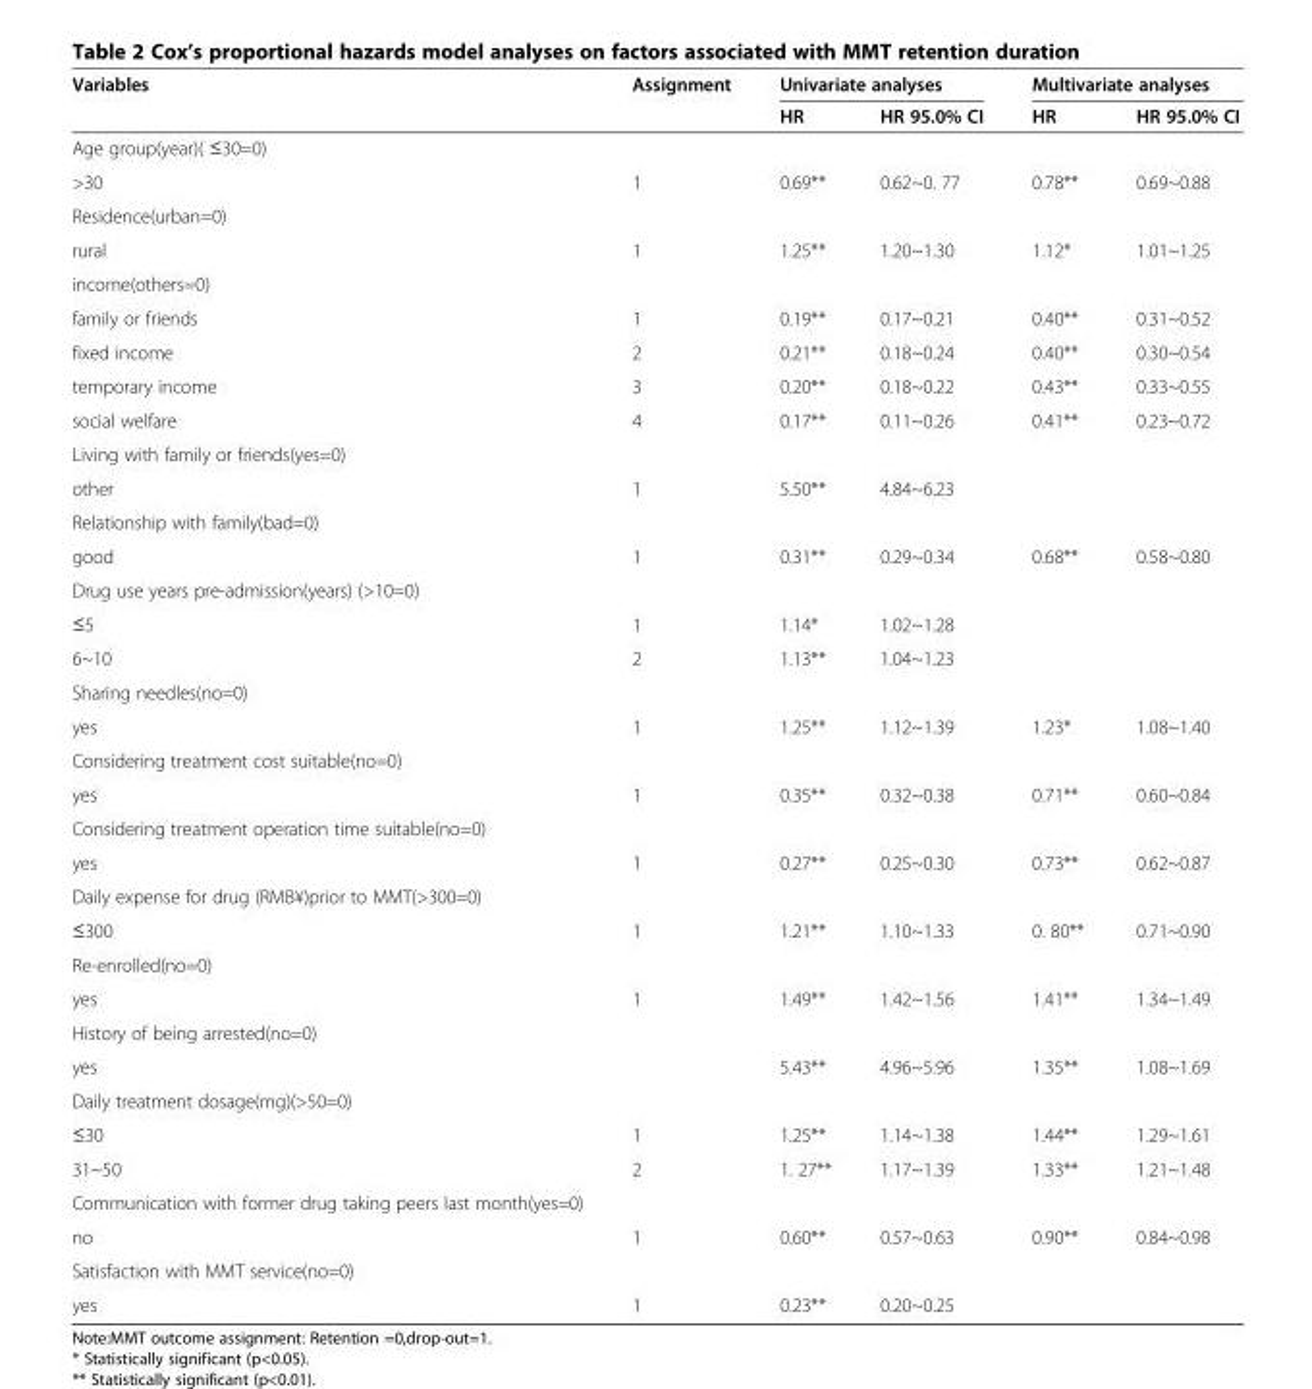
<table><thead><tr><td rowspan="2">Variables</td><td rowspan="2">Assignment</td><td colspan="2">Univariate analyses</td><td colspan="2">Multivariate analyses</td></tr><tr><td>HR</td><td>HR 95.0% CI</td><td>HR</td><td>HR 95.0% CI</td></tr></thead><tbody><tr><td colspan="6">Age group(year)( ≤30=0)</td></tr><tr><td>&gt;30</td><td>1</td><td>0.69**</td><td>0.62~0. 77</td><td>0.78**</td><td>0.69~0.88</td></tr><tr><td colspan="6">Residence(urban=0)</td></tr><tr><td>rural</td><td>1</td><td>1.25**</td><td>1.20~1.30</td><td>1.12*</td><td>1.01~1.25</td></tr><tr><td colspan="6">income(others=0)</td></tr><tr><td>family or friends</td><td>1</td><td>0.19**</td><td>0.17~0.21</td><td>0.40**</td><td>0.31~0.52</td></tr><tr><td>fixed income</td><td>2</td><td>0.21**</td><td>0.18~0.24</td><td>0.40**</td><td>0.30~0.54</td></tr><tr><td>temporary income</td><td>3</td><td>0.20**</td><td>0.18~0.22</td><td>0.43**</td><td>0.33~0.55</td></tr><tr><td>social welfare</td><td>4</td><td>0.17**</td><td>0.11~0.26</td><td>0.41**</td><td>0.23~0.72</td></tr><tr><td colspan="6">Living with family or friends(yes=0)</td></tr><tr><td>other</td><td>1</td><td>5.50**</td><td>4.84~6.23</td><td></td><td></td></tr><tr><td colspan="6">Relationship with family(bad=0)</td></tr><tr><td>good</td><td>1</td><td>0.31**</td><td>0.29~0.34</td><td>0.68**</td><td>0.58~0.80</td></tr><tr><td colspan="6">Drug use years pre-admission(years) (&gt;10=0)</td></tr><tr><td>≤5</td><td>1</td><td>1.14*</td><td>1.02~1.28</td><td></td><td></td></tr><tr><td>6~10</td><td>2</td><td>1.13**</td><td>1.04~1.23</td><td></td><td></td></tr><tr><td colspan="6">Sharing needles(no=0)</td></tr><tr><td>yes</td><td>1</td><td>1.25**</td><td>1.12~1.39</td><td>1.23*</td><td>1.08~1.40</td></tr><tr><td colspan="6">Considering treatment cost suitable(no=0)</td></tr><tr><td>yes</td><td>1</td><td>0.35**</td><td>0.32~0.38</td><td>0.71**</td><td>0.60~0.84</td></tr><tr><td colspan="6">Considering treatment operation time suitable(no=0)</td></tr><tr><td>yes</td><td>1</td><td>0.27**</td><td>0.25~0.30</td><td>0.73**</td><td>0.62~0.87</td></tr><tr><td colspan="6">Daily expense for drug (RMB¥)prior to MMT(&gt;300=0)</td></tr><tr><td>≤300</td><td>1</td><td>1.21**</td><td>1.10~1.33</td><td>0. 80**</td><td>0.71~0.90</td></tr><tr><td colspan="6">Re-enrolled(no=0)</td></tr><tr><td>yes</td><td>1</td><td>1.49**</td><td>1.42~1.56</td><td>1.41**</td><td>1.34~1.49</td></tr><tr><td colspan="6">History of being arrested(no=0)</td></tr><tr><td>yes</td><td></td><td>5.43**</td><td>4.96~5.96</td><td>1.35**</td><td>1.08~1.69</td></tr><tr><td colspan="6">Daily treatment dosage(mg)(&gt;50=0)</td></tr><tr><td>≤30</td><td>1</td><td>1.25**</td><td>1.14~1.38</td><td>1.44**</td><td>1.29~1.61</td></tr><tr><td>31~50</td><td>2</td><td>1. 27**</td><td>1.17~1.39</td><td>1.33**</td><td>1.21~1.48</td></tr><tr><td colspan="6">Communication with former drug taking peers last month(yes=0)</td></tr><tr><td>no</td><td>1</td><td>0.60**</td><td>0.57~0.63</td><td>0.90**</td><td>0.84~0.98</td></tr><tr><td colspan="6">Satisfaction with MMT service(no=0)</td></tr><tr><td>yes</td><td>1</td><td>0.23**</td><td>0.20~0.25</td><td></td><td></td></tr></tbody></table>